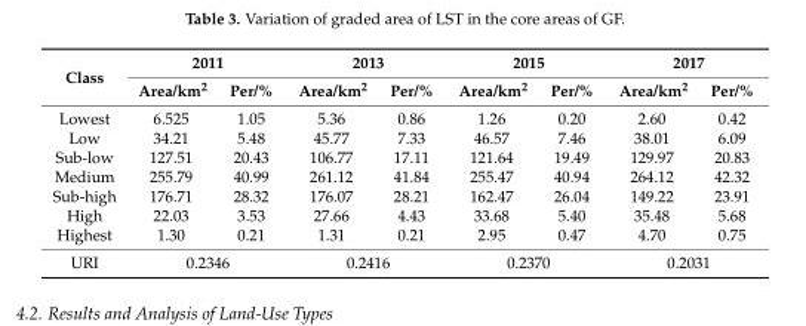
<table><thead><tr><td rowspan="2">Class</td><td colspan="2">2011</td><td colspan="2">2013</td><td colspan="2">2015</td><td colspan="2">2017</td></tr><tr><td>Area/km<sup>2</sup></td><td>Per/%</td><td>Area/km<sup>2</sup></td><td>Per/%</td><td>Area/km<sup>2</sup></td><td>Per/%</td><td>Area/km<sup>2</sup></td><td>Per/%</td></tr></thead><tbody><tr><td>Lowest</td><td>6.525</td><td>1.05</td><td>5.36</td><td>0.86</td><td>1.26</td><td>0.20</td><td>2.60</td><td>0.42</td></tr><tr><td>Low</td><td>34.21</td><td>5.48</td><td>45.77</td><td>7.33</td><td>46.57</td><td>7.46</td><td>38.01</td><td>6.09</td></tr><tr><td>Sub-low</td><td>127.51</td><td>20.43</td><td>106.77</td><td>17.11</td><td>121.64</td><td>19.49</td><td>129.97</td><td>20.83</td></tr><tr><td>Medium</td><td>255.79</td><td>40.99</td><td>261.12</td><td>41.84</td><td>255.47</td><td>40.94</td><td>264.12</td><td>42.32</td></tr><tr><td>Sub-high</td><td>176.71</td><td>28.32</td><td>176.07</td><td>28.21</td><td>162.47</td><td>26.04</td><td>149.22</td><td>23.91</td></tr><tr><td>High</td><td>22.03</td><td>3.53</td><td>27.66</td><td>4.43</td><td>33.68</td><td>5.40</td><td>35.48</td><td>5.68</td></tr><tr><td>Highest</td><td>1.30</td><td>0.21</td><td>1.31</td><td>0.21</td><td>2.95</td><td>0.47</td><td>4.70</td><td>0.75</td></tr><tr><td>URI</td><td colspan="2">0.2346</td><td colspan="2">0.2416</td><td colspan="2">0.2370</td><td colspan="2">0.2031</td></tr></tbody></table>